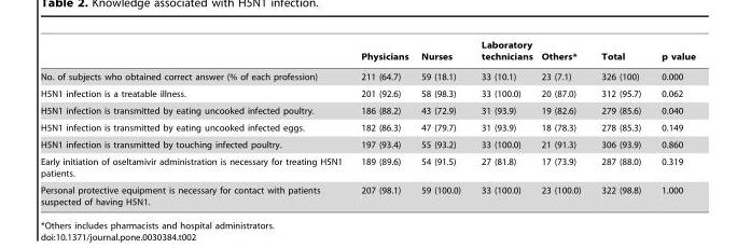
<table><thead><tr><td></td><td>Physicians</td><td>Nurses</td><td>Laboratory technicians</td><td>Others*</td><td>Total</td><td>p value</td></tr></thead><tbody><tr><td>No. of subjects who obtained correct answer (% of each profession)</td><td>211 (64.7)</td><td>59 (18.1)</td><td>33 (10.1)</td><td>23 (7.1)</td><td>326 (100)</td><td>0.000</td></tr><tr><td>H5N1 infection is a treatable illness.</td><td>201 (92.6)</td><td>58 (98.3)</td><td>33 (100.0)</td><td>20 (87.0)</td><td>312 (95.7)</td><td>0.062</td></tr><tr><td>H5N1 infection is transmitted by eating uncooked infected poultry.</td><td>186 (88.2)</td><td>43 (72.9)</td><td>31 (93.9)</td><td>19 (82.6)</td><td>279 (85.6)</td><td>0.040</td></tr><tr><td>H5N1 infection is transmitted by eating uncooked infected eggs.</td><td>182 (86.3)</td><td>47 (79.7)</td><td>31 (93.9)</td><td>18 (78.3)</td><td>278 (85.3)</td><td>0.149</td></tr><tr><td>H5N1 infection is transmitted by touching infected poultry.</td><td>197 (93.4)</td><td>55 (93.2)</td><td>33 (100.0)</td><td>21 (91.3)</td><td>306 (93.9)</td><td>0.860</td></tr><tr><td>Early initiation of oseltamivir administration is necessary for treating H5N1 patients.</td><td>189 (89.6)</td><td>54 (91.5)</td><td>27 (81.8)</td><td>17 (73.9)</td><td>287 (88.0)</td><td>0.319</td></tr><tr><td>Personal protective equipment is necessary for contact with patients suspected of having H5N1.</td><td>207 (98.1)</td><td>59 (100.0)</td><td>33 (100.0)</td><td>23 (100.0)</td><td>322 (98.8)</td><td>1.000</td></tr></tbody></table>